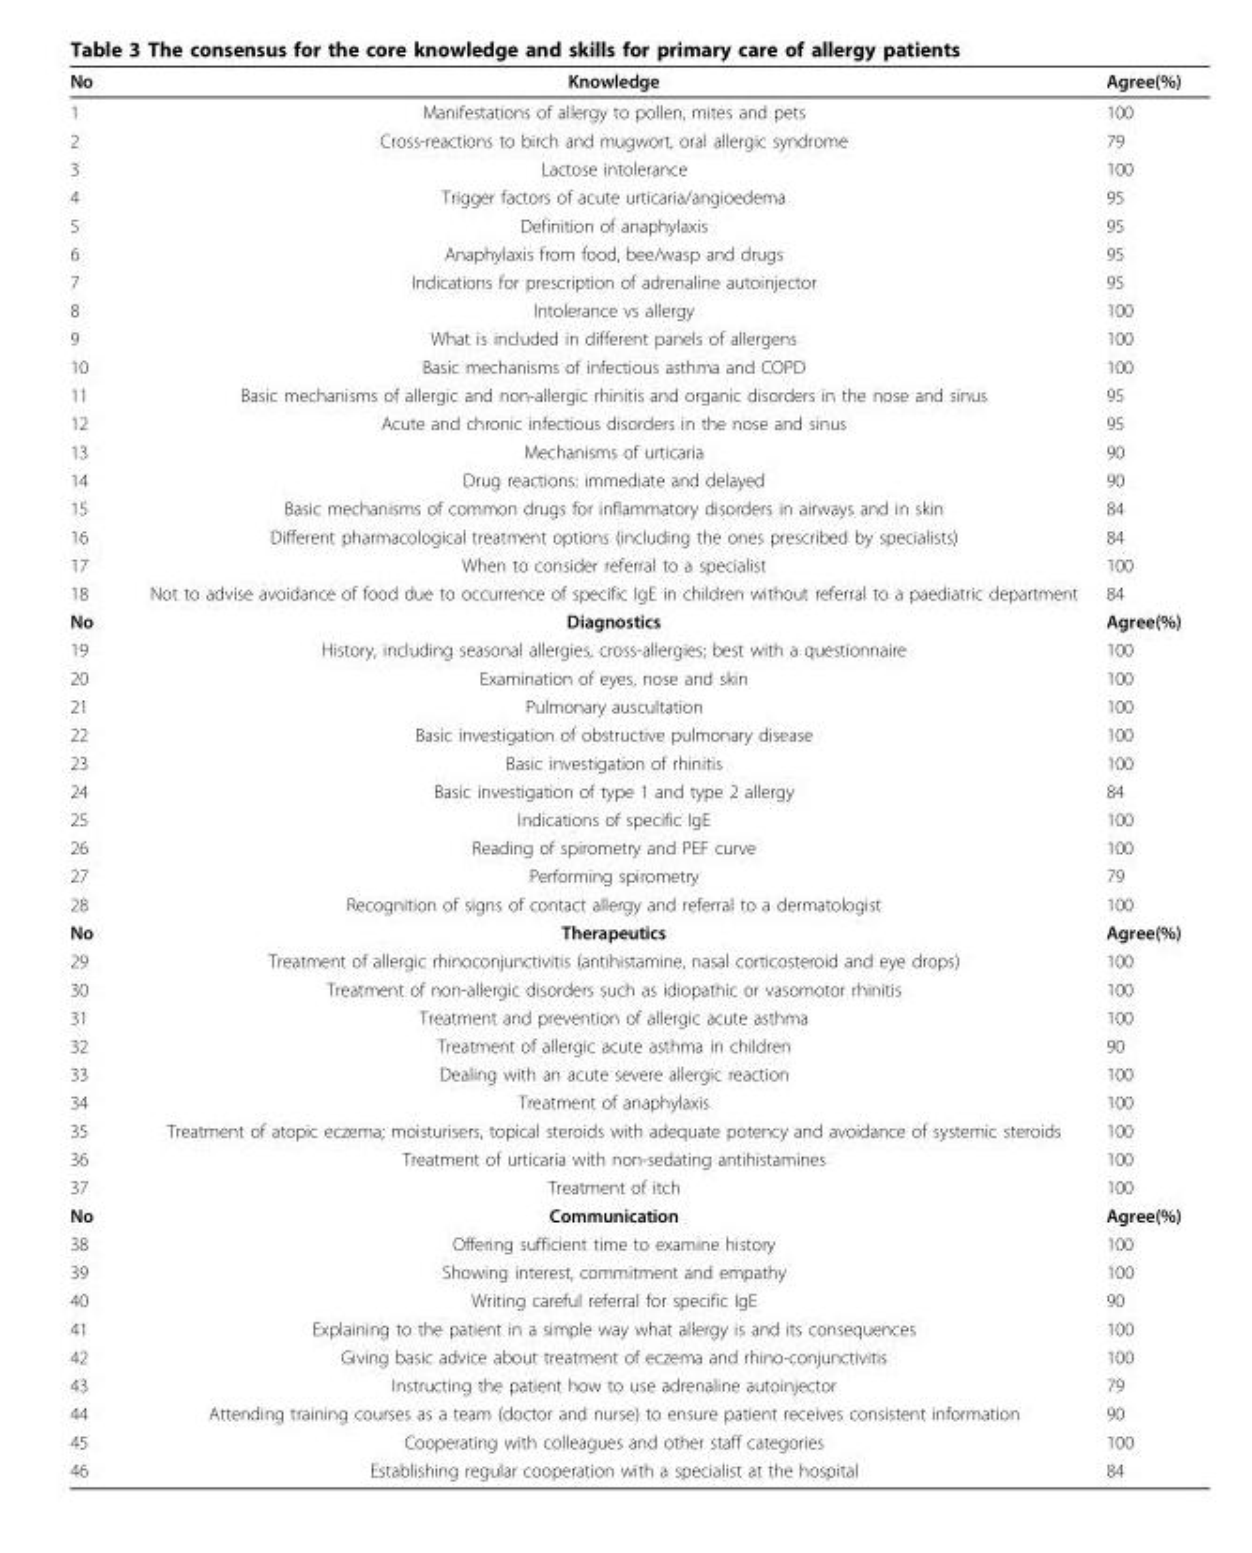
<table><thead><tr><td>No</td><td>Knowledge</td><td>Agree(%)</td></tr></thead><tbody><tr><td>1</td><td>Manifestations of allergy to pollen, mites and pets</td><td>100</td></tr><tr><td>2</td><td>Cross-reactions to birch and mugwort, oral allergic syndrome</td><td>79</td></tr><tr><td>3</td><td>Lactose intolerance</td><td>100</td></tr><tr><td>4</td><td>Trigger factors of acute urticaria/angioedema</td><td>95</td></tr><tr><td>5</td><td>Definition of anaphylaxis</td><td>95</td></tr><tr><td>6</td><td>Anaphylaxis from food, bee/wasp and drugs</td><td>95</td></tr><tr><td>7</td><td>Indications for prescription of adrenaline autoinjector</td><td>95</td></tr><tr><td>8</td><td>Intolerance vs allergy</td><td>100</td></tr><tr><td>9</td><td>What is included in different panels of allergens</td><td>100</td></tr><tr><td>10</td><td>Basic mechanisms of infectious asthma and COPD</td><td>100</td></tr><tr><td>11</td><td>Basic mechanisms of allergic and non-allergic rhinitis and organic disorders in the nose and sinus</td><td>95</td></tr><tr><td>12</td><td>Acute and chronic infectious disorders in the nose and sinus</td><td>95</td></tr><tr><td>13</td><td>Mechanisms of urticaria</td><td>90</td></tr><tr><td>14</td><td>Drug reactions: immediate and delayed</td><td>90</td></tr><tr><td>15</td><td>Basic mechanisms of common drugs for inflammatory disorders in airways and in skin</td><td>84</td></tr><tr><td>16</td><td>Different pharmacological treatment options (including the ones prescribed by specialists)</td><td>84</td></tr><tr><td>17</td><td>When to consider referral to a specialist</td><td>100</td></tr><tr><td>18</td><td>Not to advise avoidance of food due to occurrence of specific IgE in children without referral to a paediatric department</td><td>84</td></tr><tr><td>No</td><td>Diagnostics</td><td>Agree(%)</td></tr><tr><td>19</td><td>History, including seasonal allergies, cross-allergies; best with a questionnaire</td><td>100</td></tr><tr><td>20</td><td>Examination of eyes, nose and skin</td><td>100</td></tr><tr><td>21</td><td>Pulmonary auscultation</td><td>100</td></tr><tr><td>22</td><td>Basic investigation of obstructive pulmonary disease</td><td>100</td></tr><tr><td>23</td><td>Basic investigation of rhinitis</td><td>100</td></tr><tr><td>24</td><td>Basic investigation of type 1 and type 2 allergy</td><td>84</td></tr><tr><td>25</td><td>Indications of specific IgE</td><td>100</td></tr><tr><td>26</td><td>Reading of spirometry and PEF curve</td><td>100</td></tr><tr><td>27</td><td>Performing spirometry</td><td>79</td></tr><tr><td>28</td><td>Recognition of signs of contact allergy and referral to a dermatologist</td><td>100</td></tr><tr><td>No</td><td>Therapeutics</td><td>Agree(%)</td></tr><tr><td>29</td><td>Treatment of allergic rhinoconjunctivitis (antihistamine, nasal corticosteroid and eye drops)</td><td>100</td></tr><tr><td>30</td><td>Treatment of non-allergic disorders such as idiopathic or vasomotor rhinitis</td><td>100</td></tr><tr><td>31</td><td>Treatment and prevention of allergic acute asthma</td><td>100</td></tr><tr><td>32</td><td>Treatment of allergic acute asthma in children</td><td>90</td></tr><tr><td>33</td><td>Dealing with an acute severe allergic reaction</td><td>100</td></tr><tr><td>34</td><td>Treatment of anaphylaxis</td><td>100</td></tr><tr><td>35</td><td>Treatment of atopic eczema; moisturisers, topical steroids with adequate potency and avoidance of systemic steroids</td><td>100</td></tr><tr><td>36</td><td>Treatment of urticaria with non-sedating antihistamines</td><td>100</td></tr><tr><td>37</td><td>Treatment of itch</td><td>100</td></tr><tr><td>No</td><td>Communication</td><td>Agree(%)</td></tr><tr><td>38</td><td>Offering sufficient time to examine history</td><td>100</td></tr><tr><td>39</td><td>Showing interest, commitment and empathy</td><td>100</td></tr><tr><td>40</td><td>Writing careful referral for specific IgE</td><td>90</td></tr><tr><td>41</td><td>Explaining to the patient in a simple way what allergy is and its consequences</td><td>100</td></tr><tr><td>42</td><td>Giving basic advice about treatment of eczema and rhino-conjunctivitis</td><td>100</td></tr><tr><td>43</td><td>Instructing the patient how to use adrenaline autoinjector</td><td>79</td></tr><tr><td>44</td><td>Attending training courses as a team (doctor and nurse) to ensure patient receives consistent information</td><td>90</td></tr><tr><td>45</td><td>Cooperating with colleagues and other staff categories</td><td>100</td></tr><tr><td>46</td><td>Establishing regular cooperation with a specialist at the hospital</td><td>84</td></tr></tbody></table>